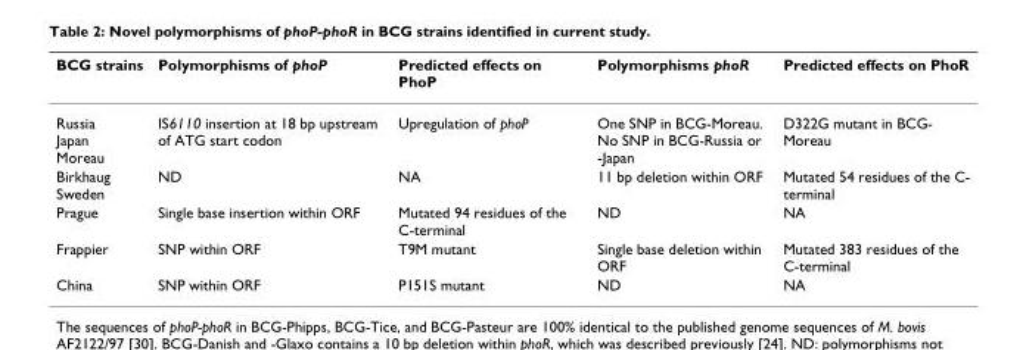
<table><thead><tr><td>BCG strains</td><td>Polymorphisms of phoP</td><td>Predicted effects on PhoP</td><td>Polymorphisms phoR</td><td>Predicted effects on PhoR</td></tr></thead><tbody><tr><td>Russia Japan Moreau</td><td>IS6110 insertion at 18 bp upstream of ATG start codon</td><td>Upregulation of phoP</td><td>One SNP in BCG-Moreau. No SNP in BCG-Russia or -Japan</td><td>D322G mutant in BCG- Moreau</td></tr><tr><td>Birkhaug Sweden</td><td>ND</td><td>NA</td><td>11 bp deletion within ORF</td><td>Mutated 54 residues of the C- terminal</td></tr><tr><td>Prague</td><td>Single base insertion within ORF</td><td>Mutated 94 residues of the C-terminal</td><td>ND</td><td>NA</td></tr><tr><td>Frappier</td><td>SNP within ORF</td><td>T9M mutant</td><td>Single base deletion within ORF</td><td>Mutated 383 residues of the C-terminal</td></tr><tr><td>China</td><td>SNP within ORF</td><td>P151S mutant</td><td>ND</td><td>NA</td></tr></tbody></table>